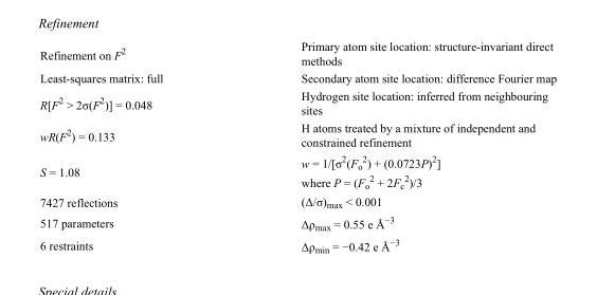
<table><tbody><tr><td>Refinement on F<sup>2</sup></td><td>Primary atom site location: structure-invariant direct methods</td></tr><tr><td>Least-squares matrix: full</td><td>Secondary atom site location: difference Fourier map</td></tr><tr><td>R[F<sup>2</sup> &gt; 2σ(F<sup>2</sup>)] = 0.048</td><td>Hydrogen site location: inferred from neighbouring sites</td></tr><tr><td>wR(F<sup>2</sup>) = 0.133</td><td>H atoms treated by a mixture of independent and constrained refinement</td></tr><tr><td>S = 1.08</td><td>w = 1/[σ<sup>2</sup>(F<sub>o</sub> <sup>2</sup>) + (0.0723P)<sup>2</sup>] where P = (F<sub>o</sub> <sup>2</sup> + 2F<sub>c</sub> <sup>2</sup>)/3</td></tr><tr><td>7427 reflections</td><td>(Δ/σ)<sub>max</sub> &lt; 0.001</td></tr><tr><td>517 parameters</td><td>Δρ<sub>max</sub> = 0.55 e Å<sup>−3</sup></td></tr><tr><td>6 restraints</td><td>Δρ<sub>min</sub> = −0.42 e Å<sup>−3</sup></td></tr></tbody></table>